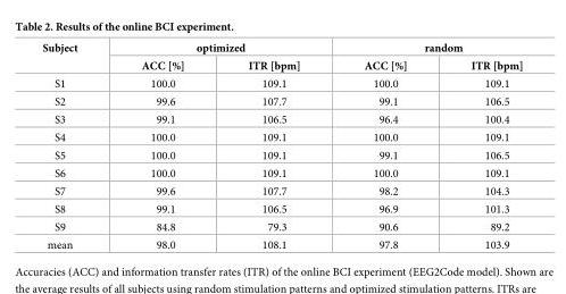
<table><thead><tr><td rowspan="2">Subject</td><td colspan="2">optimized</td><td colspan="2">random</td></tr><tr><td>ACC [%]</td><td>ITR [bpm]</td><td>ACC [%]</td><td>ITR [bpm]</td></tr></thead><tbody><tr><td>S1</td><td>100.0</td><td>109.1</td><td>100.0</td><td>109.1</td></tr><tr><td>S2</td><td>99.6</td><td>107.7</td><td>99.1</td><td>106.5</td></tr><tr><td>S3</td><td>99.1</td><td>106.5</td><td>96.4</td><td>100.4</td></tr><tr><td>S4</td><td>100.0</td><td>109.1</td><td>100.0</td><td>109.1</td></tr><tr><td>S5</td><td>100.0</td><td>109.1</td><td>99.1</td><td>106.5</td></tr><tr><td>S6</td><td>100.0</td><td>109.1</td><td>100.0</td><td>109.1</td></tr><tr><td>S7</td><td>99.6</td><td>107.7</td><td>98.2</td><td>104.3</td></tr><tr><td>S8</td><td>99.1</td><td>106.5</td><td>96.9</td><td>101.3</td></tr><tr><td>S9</td><td>84.8</td><td>79.3</td><td>90.6</td><td>89.2</td></tr><tr><td>mean</td><td>98.0</td><td>108.1</td><td>97.8</td><td>103.9</td></tr></tbody></table>